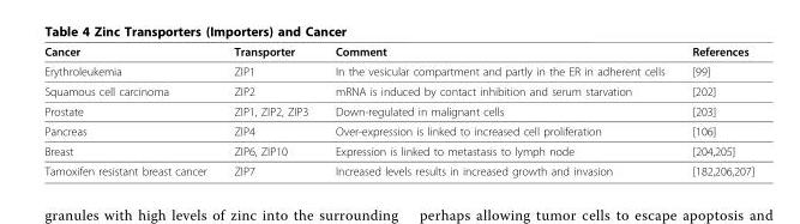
<table><thead><tr><td>Cancer</td><td>Transporter</td><td>Comment</td><td>References</td></tr></thead><tbody><tr><td>Erythroleukemia</td><td>ZIP1</td><td>In the vesicular compartment and partly in the ER in adherent cells</td><td>[99]</td></tr><tr><td>Squamous cell carcinoma</td><td>ZIP2</td><td>mRNA is induced by contact inhibition and serum starvation</td><td>[202]</td></tr><tr><td>Prostate</td><td>ZIP1, ZIP2, ZIP3</td><td>Down-regulated in malignant cells</td><td>[203]</td></tr><tr><td>Pancreas</td><td>ZIP4</td><td>Over-expression is linked to increased cell proliferation</td><td>[106]</td></tr><tr><td>Breast</td><td>ZIP6, ZIP10</td><td>Expression is linked to metastasis to lymph node</td><td>[204,205]</td></tr><tr><td>Tamoxifen resistant breast cancer</td><td>ZIP7</td><td>Increased levels results in increased growth and invasion</td><td>[182,206,207]</td></tr></tbody></table>